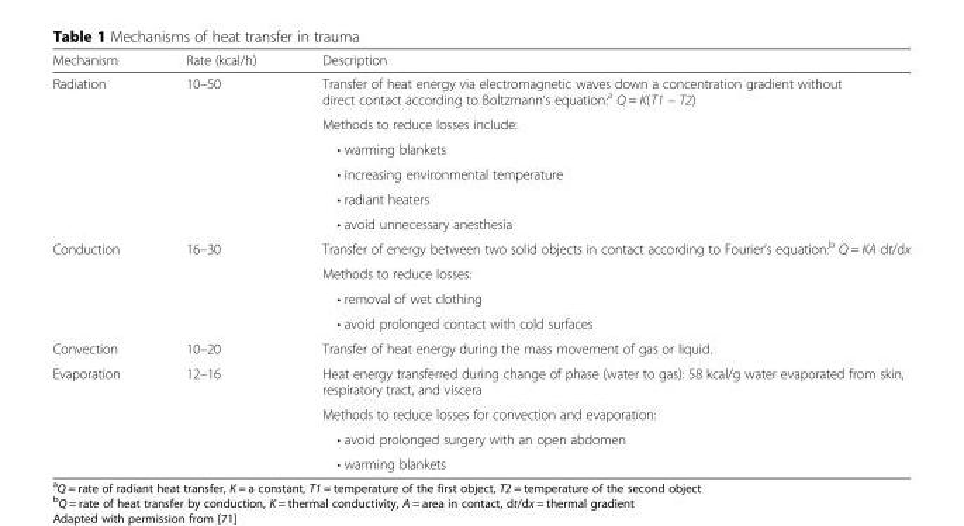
<table><thead><tr><td>Mechanism</td><td>Rate (kcal/h)</td><td>Description</td></tr></thead><tbody><tr><td rowspan="6">Radiation</td><td>10–50</td><td>Transfer of heat energy via electromagnetic waves down a concentration gradient without direct contact according to Boltzmann’s equation:<sup>a</sup> Q = K(T1 – T2)</td></tr><tr><td></td><td>Methods to reduce losses include:</td></tr><tr><td></td><td>• warming blankets</td></tr><tr><td></td><td>• increasing environmental temperature</td></tr><tr><td></td><td>• radiant heaters</td></tr><tr><td></td><td>• avoid unnecessary anesthesia</td></tr><tr><td rowspan="4">Conduction</td><td>16–30</td><td>Transfer of energy between two solid objects in contact according to Fourier’s equation:<sup>b</sup> Q = KA dt/dx</td></tr><tr><td></td><td>Methods to reduce losses:</td></tr><tr><td></td><td>• removal of wet clothing</td></tr><tr><td></td><td>• avoid prolonged contact with cold surfaces</td></tr><tr><td>Convection</td><td>10–20</td><td>Transfer of heat energy during the mass movement of gas or liquid.</td></tr><tr><td rowspan="4">Evaporation</td><td>12–16</td><td>Heat energy transferred during change of phase (water to gas): 58 kcal/g water evaporated from skin, respiratory tract, and viscera</td></tr><tr><td></td><td>Methods to reduce losses for convection and evaporation:</td></tr><tr><td></td><td>• avoid prolonged surgery with an open abdomen</td></tr><tr><td></td><td>• warming blankets</td></tr></tbody></table>